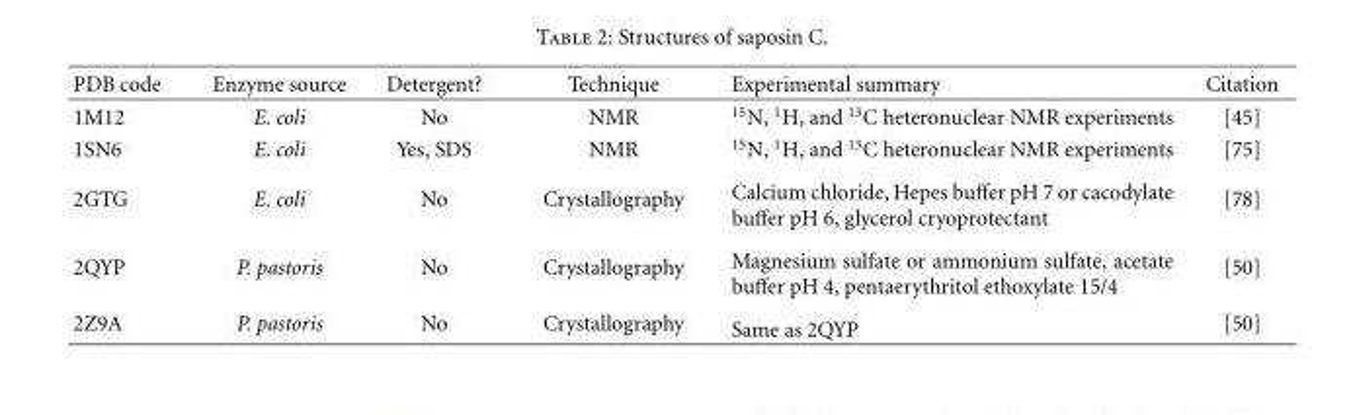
<table><thead><tr><td>PDB code</td><td>Enzyme source</td><td>Detergent?</td><td>Technique</td><td>Experimental summary</td><td>Citation</td></tr></thead><tbody><tr><td>1M12</td><td>E. coli</td><td>No</td><td>NMR</td><td><sup>15</sup>N, <sup>1</sup>H, and <sup>13</sup>C heteronuclear NMR experiments</td><td>[45]</td></tr><tr><td>1SN6</td><td>E. coli</td><td>Yes, SDS</td><td>NMR</td><td><sup>15</sup>N, <sup>1</sup>H, and <sup>13</sup>C heteronuclear NMR experiments</td><td>[75]</td></tr><tr><td>2GTG</td><td>E. coli</td><td>No</td><td>Crystallography</td><td>Calcium chloride, Hepes buffer pH 7 or cacodylate buffer pH 6, glycerol cryoprotectant</td><td>[78]</td></tr><tr><td>2QYP</td><td>P. pastoris</td><td>No</td><td>Crystallography</td><td>Magnesium sulfate or ammonium sulfate, acetate buffer pH 4, pentaerythritol ethoxylate 15/4</td><td>[50]</td></tr><tr><td>2Z9A</td><td>P. pastoris</td><td>No</td><td>Crystallography</td><td>Same as 2QYP</td><td>[50]</td></tr></tbody></table>